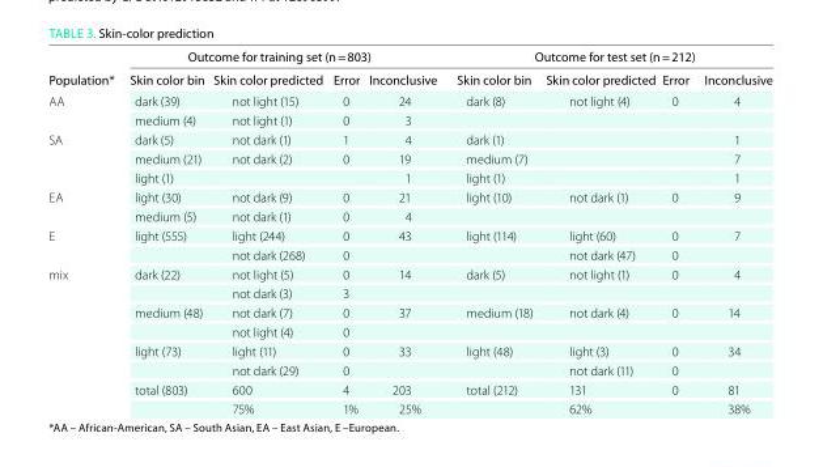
<table><thead><tr><td colspan="5">outcome for training set (n = 803)</td><td colspan="4">outcome for test set (n = 212)</td></tr><tr><td>Population*</td><td>Skin color bin</td><td>Skin color predicted</td><td>Error</td><td>inconclusive</td><td>Skin color bin</td><td>Skin color predicted</td><td>Error</td><td>inconclusive</td></tr></thead><tbody><tr><td rowspan="2">AA</td><td>dark (39)</td><td>not light (15)</td><td>0</td><td>24</td><td>dark (8)</td><td>not light (4)</td><td>0</td><td>4</td></tr><tr><td>medium (4)</td><td>not light (1)</td><td>0</td><td>3</td><td></td><td></td><td></td><td></td></tr><tr><td rowspan="3">SA</td><td>dark (5)</td><td>not dark (1)</td><td>1</td><td>4</td><td>dark (1)</td><td></td><td></td><td>1</td></tr><tr><td>medium (21)</td><td>not dark (2)</td><td>0</td><td>19</td><td>medium (7)</td><td></td><td></td><td>7</td></tr><tr><td>light (1)</td><td></td><td></td><td>1</td><td>light (1)</td><td></td><td></td><td>1</td></tr><tr><td rowspan="2">EA</td><td>light (30)</td><td>not dark (9)</td><td>0</td><td>21</td><td>light (10)</td><td>not dark (1)</td><td>0</td><td>9</td></tr><tr><td>medium (5)</td><td>not dark (1)</td><td>0</td><td>4</td><td></td><td></td><td></td><td></td></tr><tr><td rowspan="2">E</td><td>light (555)</td><td>light (244)</td><td>0</td><td rowspan="2">43</td><td>light (114)</td><td>light (60)</td><td>0</td><td>7</td></tr><tr><td></td><td>not dark (268)</td><td>0</td><td></td><td>not dark (47)</td><td>0</td><td></td></tr><tr><td rowspan="8">mix</td><td>dark (22)</td><td>not light (5)</td><td>0</td><td>14</td><td>dark (5)</td><td>not light (1)</td><td>0</td><td>4</td></tr><tr><td></td><td>not dark (3)</td><td>3</td><td></td><td></td><td></td><td></td><td></td></tr><tr><td>medium (48)</td><td>not dark (7)</td><td>0</td><td rowspan="2">37</td><td>medium (18)</td><td>not dark (4)</td><td>0</td><td>14</td></tr><tr><td></td><td>not light (4)</td><td>0</td><td></td><td></td><td></td><td></td></tr><tr><td>light (73)</td><td>light (11)</td><td>0</td><td rowspan="2">33</td><td>light (48)</td><td>light (3)</td><td>0</td><td>34</td></tr><tr><td></td><td>not dark (29)</td><td>0</td><td></td><td>not dark (11)</td><td>0</td><td></td></tr><tr><td>total (803)</td><td>600</td><td>4</td><td>203</td><td>total (212)</td><td>131</td><td>0</td><td>81</td></tr><tr><td></td><td>75%</td><td>1%</td><td>25%</td><td></td><td>62%</td><td></td><td>38%</td></tr></tbody></table>